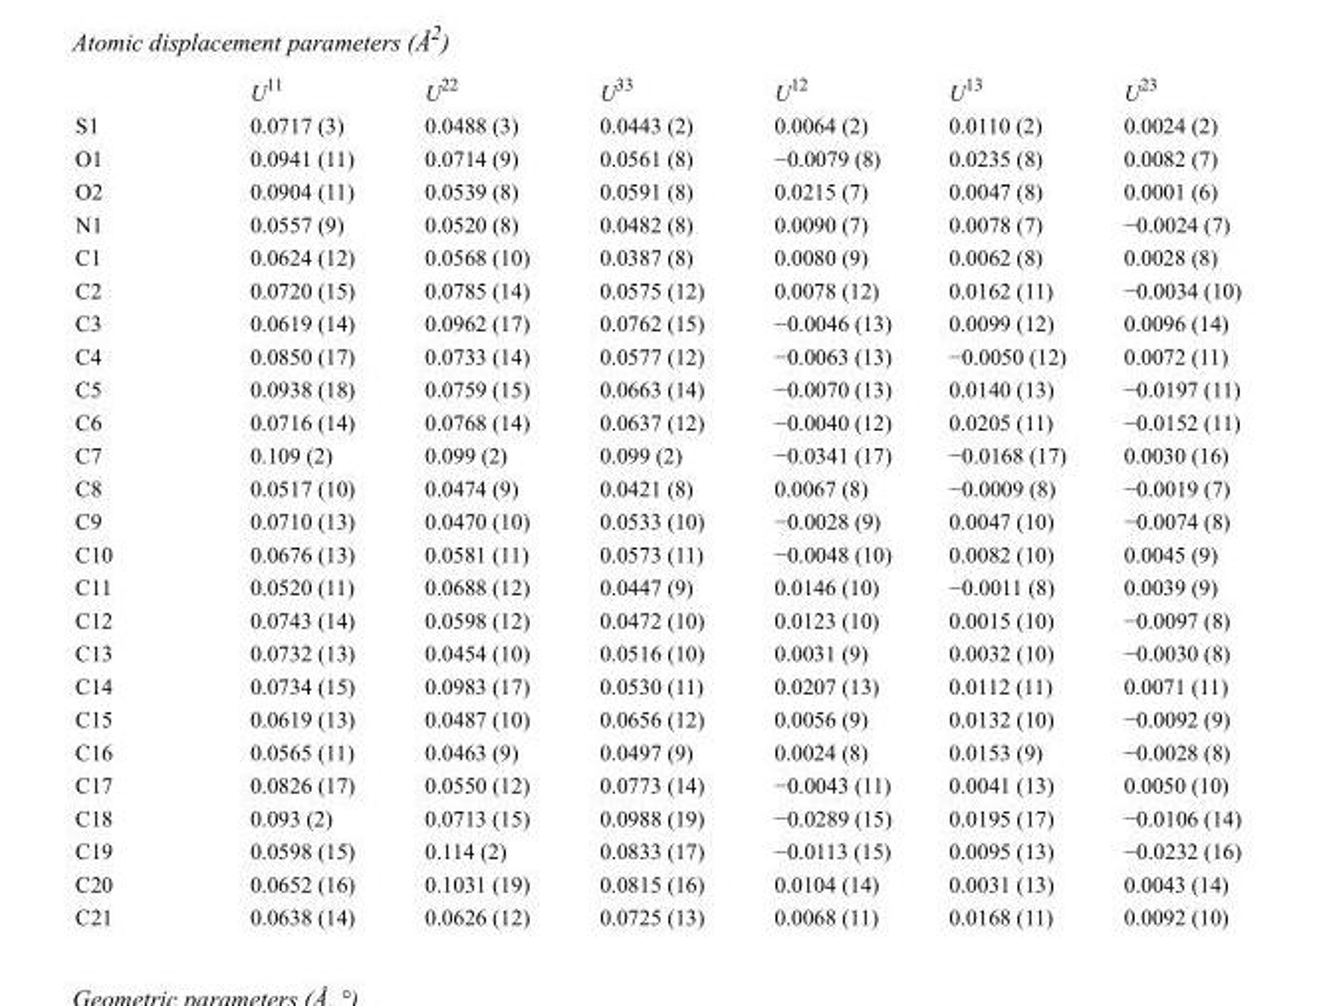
<table><thead><tr><td></td><td>U<sup>11</sup></td><td>U<sup>22</sup></td><td>U<sup>33</sup></td><td>U<sup>12</sup></td><td>U<sup>13</sup></td><td>U<sup>23</sup></td></tr></thead><tbody><tr><td>S1</td><td>0.0717 (3)</td><td>0.0488 (3)</td><td>0.0443 (2)</td><td>0.0064 (2)</td><td>0.0110 (2)</td><td>0.0024 (2)</td></tr><tr><td>O1</td><td>0.0941 (11)</td><td>0.0714 (9)</td><td>0.0561 (8)</td><td>−0.0079 (8)</td><td>0.0235 (8)</td><td>0.0082 (7)</td></tr><tr><td>O2</td><td>0.0904 (11)</td><td>0.0539 (8)</td><td>0.0591 (8)</td><td>0.0215 (7)</td><td>0.0047 (8)</td><td>0.0001 (6)</td></tr><tr><td>N1</td><td>0.0557 (9)</td><td>0.0520 (8)</td><td>0.0482 (8)</td><td>0.0090 (7)</td><td>0.0078 (7)</td><td>−0.0024 (7)</td></tr><tr><td>C1</td><td>0.0624 (12)</td><td>0.0568 (10)</td><td>0.0387 (8)</td><td>0.0080 (9)</td><td>0.0062 (8)</td><td>0.0028 (8)</td></tr><tr><td>C2</td><td>0.0720 (15)</td><td>0.0785 (14)</td><td>0.0575 (12)</td><td>0.0078 (12)</td><td>0.0162 (11)</td><td>−0.0034 (10)</td></tr><tr><td>C3</td><td>0.0619 (14)</td><td>0.0962 (17)</td><td>0.0762 (15)</td><td>−0.0046 (13)</td><td>0.0099 (12)</td><td>0.0096 (14)</td></tr><tr><td>C4</td><td>0.0850 (17)</td><td>0.0733 (14)</td><td>0.0577 (12)</td><td>−0.0063 (13)</td><td>−0.0050 (12)</td><td>0.0072 (11)</td></tr><tr><td>C5</td><td>0.0938 (18)</td><td>0.0759 (15)</td><td>0.0663 (14)</td><td>−0.0070 (13)</td><td>0.0140 (13)</td><td>−0.0197 (11)</td></tr><tr><td>C6</td><td>0.0716 (14)</td><td>0.0768 (14)</td><td>0.0637 (12)</td><td>−0.0040 (12)</td><td>0.0205 (11)</td><td>−0.0152 (11)</td></tr><tr><td>C7</td><td>0.109 (2)</td><td>0.099 (2)</td><td>0.099 (2)</td><td>−0.0341 (17)</td><td>−0.0168 (17)</td><td>0.0030 (16)</td></tr><tr><td>C8</td><td>0.0517 (10)</td><td>0.0474 (9)</td><td>0.0421 (8)</td><td>0.0067 (8)</td><td>−0.0009 (8)</td><td>−0.0019 (7)</td></tr><tr><td>C9</td><td>0.0710 (13)</td><td>0.0470 (10)</td><td>0.0533 (10)</td><td>−0.0028 (9)</td><td>0.0047 (10)</td><td>−0.0074 (8)</td></tr><tr><td>C10</td><td>0.0676 (13)</td><td>0.0581 (11)</td><td>0.0573 (11)</td><td>−0.0048 (10)</td><td>0.0082 (10)</td><td>0.0045 (9)</td></tr><tr><td>C11</td><td>0.0520 (11)</td><td>0.0688 (12)</td><td>0.0447 (9)</td><td>0.0146 (10)</td><td>−0.0011 (8)</td><td>0.0039 (9)</td></tr><tr><td>C12</td><td>0.0743 (14)</td><td>0.0598 (12)</td><td>0.0472 (10)</td><td>0.0123 (10)</td><td>0.0015 (10)</td><td>−0.0097 (8)</td></tr><tr><td>C13</td><td>0.0732 (13)</td><td>0.0454 (10)</td><td>0.0516 (10)</td><td>0.0031 (9)</td><td>0.0032 (10)</td><td>−0.0030 (8)</td></tr><tr><td>C14</td><td>0.0734 (15)</td><td>0.0983 (17)</td><td>0.0530 (11)</td><td>0.0207 (13)</td><td>0.0112 (11)</td><td>0.0071 (11)</td></tr><tr><td>C15</td><td>0.0619 (13)</td><td>0.0487 (10)</td><td>0.0656 (12)</td><td>0.0056 (9)</td><td>0.0132 (10)</td><td>−0.0092 (9)</td></tr><tr><td>C16</td><td>0.0565 (11)</td><td>0.0463 (9)</td><td>0.0497 (9)</td><td>0.0024 (8)</td><td>0.0153 (9)</td><td>−0.0028 (8)</td></tr><tr><td>C17</td><td>0.0826 (17)</td><td>0.0550 (12)</td><td>0.0773 (14)</td><td>−0.0043 (11)</td><td>0.0041 (13)</td><td>0.0050 (10)</td></tr><tr><td>C18</td><td>0.093 (2)</td><td>0.0713 (15)</td><td>0.0988 (19)</td><td>−0.0289 (15)</td><td>0.0195 (17)</td><td>−0.0106 (14)</td></tr><tr><td>C19</td><td>0.0598 (15)</td><td>0.114 (2)</td><td>0.0833 (17)</td><td>−0.0113 (15)</td><td>0.0095 (13)</td><td>−0.0232 (16)</td></tr><tr><td>C20</td><td>0.0652 (16)</td><td>0.1031 (19)</td><td>0.0815 (16)</td><td>0.0104 (14)</td><td>0.0031 (13)</td><td>0.0043 (14)</td></tr><tr><td>C21</td><td>0.0638 (14)</td><td>0.0626 (12)</td><td>0.0725 (13)</td><td>0.0068 (11)</td><td>0.0168 (11)</td><td>0.0092 (10)</td></tr></tbody></table>